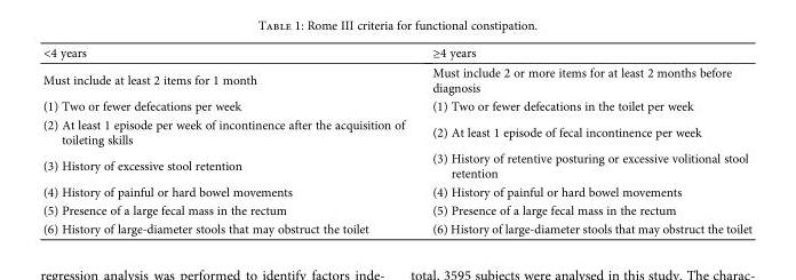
<table><thead><tr><td>&lt;4 years</td><td>≥4 years</td></tr></thead><tbody><tr><td>Must include at least 2 items for 1 month</td><td>Must include 2 or more items for at least 2 months before diagnosis</td></tr><tr><td>(1) Two or fewer defecations per week</td><td>(1) Two or fewer defecations in the toilet per week</td></tr><tr><td>(2) At least 1 episode per week of incontinence after the acquisition of toileting skills</td><td>(2) At least 1 episode of fecal incontinence per week</td></tr><tr><td>(3) History of excessive stool retention</td><td>(3) History of retentive posturing or excessive volitional stool retention</td></tr><tr><td>(4) History of painful or hard bowel movements</td><td>(4) History of painful or hard bowel movements</td></tr><tr><td>(5) Presence of a large fecal mass in the rectum</td><td>(5) Presence of a large fecal mass in the rectum</td></tr><tr><td>(6) History of large-diameter stools that may obstruct the toilet</td><td>(6) History of large-diameter stools that may obstruct the toilet</td></tr></tbody></table>